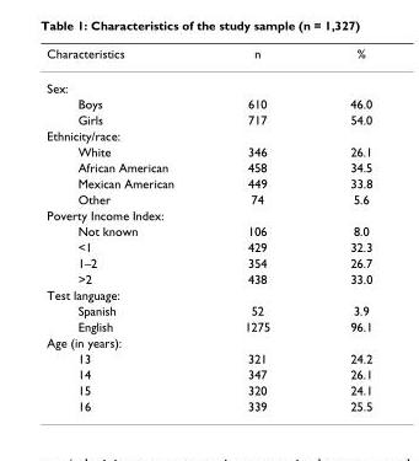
<table><thead><tr><td>Characteristics</td><td>n</td><td>%</td></tr></thead><tbody><tr><td colspan="3">Sex:</td></tr><tr><td>Boys</td><td>610</td><td>46.0</td></tr><tr><td>Girls</td><td>717</td><td>54.0</td></tr><tr><td colspan="3">Ethnicity/race:</td></tr><tr><td>White</td><td>346</td><td>26.1</td></tr><tr><td>African American</td><td>458</td><td>34.5</td></tr><tr><td>Mexican American</td><td>449</td><td>33.8</td></tr><tr><td>Other</td><td>74</td><td>5.6</td></tr><tr><td colspan="3">Poverty Income Index:</td></tr><tr><td>Not known</td><td>106</td><td>8.0</td></tr><tr><td>&lt;1</td><td>429</td><td>32.3</td></tr><tr><td>1–2</td><td>354</td><td>26.7</td></tr><tr><td>&gt;2</td><td>438</td><td>33.0</td></tr><tr><td colspan="3">Test language:</td></tr><tr><td>Spanish</td><td>52</td><td>3.9</td></tr><tr><td>English</td><td>1275</td><td>96.1</td></tr><tr><td colspan="3">Age (in years):</td></tr><tr><td>13</td><td>321</td><td>24.2</td></tr><tr><td>14</td><td>347</td><td>26.1</td></tr><tr><td>15</td><td>320</td><td>24.1</td></tr><tr><td>16</td><td>339</td><td>25.5</td></tr></tbody></table>